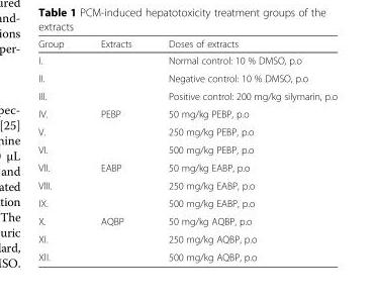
<table><thead><tr><td>Group</td><td>Extracts</td><td>Doses of extracts</td></tr></thead><tbody><tr><td>I.</td><td></td><td>Normal control: 10 % DMSO, p.o</td></tr><tr><td>II.</td><td></td><td>Negative control: 10 % DMSO, p.o</td></tr><tr><td>Ill.</td><td></td><td>Positive control: 200 mg/kg silymarin, p.o</td></tr><tr><td>IV.</td><td>PEBP</td><td>50 mg/kg PEBP, p.o</td></tr><tr><td>V.</td><td></td><td>250 mg/kg PEBP, p.o</td></tr><tr><td>VI.</td><td></td><td>500 mg/kg PEBP, p.o</td></tr><tr><td>VlI.</td><td>EABP</td><td>50 mg/kg EABP, p.o</td></tr><tr><td>VllI.</td><td></td><td>250 mg/kg EABP, p.o</td></tr><tr><td>IX.</td><td></td><td>500 mg/kg EABP, p.o</td></tr><tr><td>X.</td><td>AQBP</td><td>50 mg/kg AQBP, p.o</td></tr><tr><td>XI.</td><td></td><td>250 mg/kg AQBP, p.o</td></tr><tr><td>XlI.</td><td></td><td>500 mg/kg AQBP, p.o</td></tr></tbody></table>